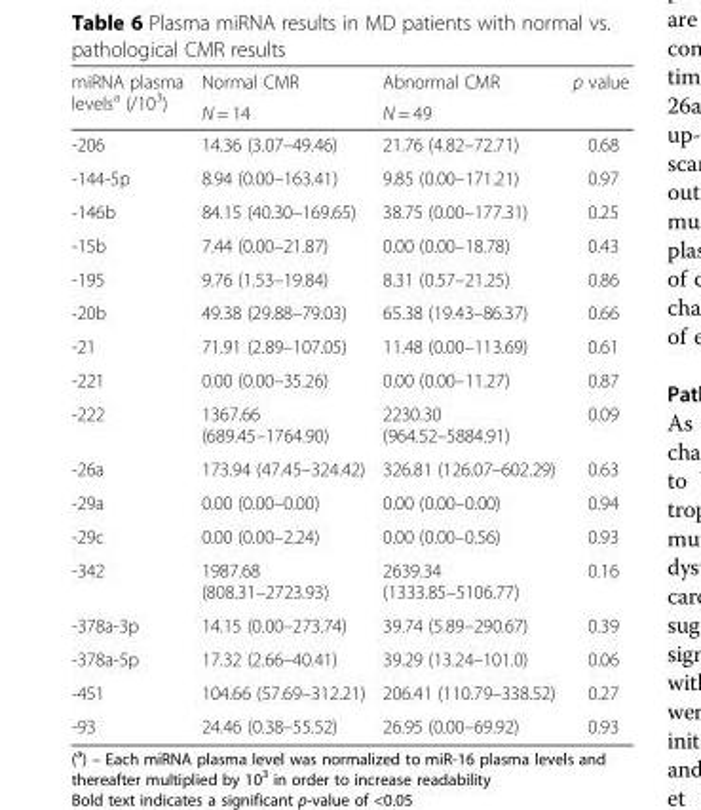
<table><thead><tr><td rowspan="2">miRNA plasma levels<sup>a</sup> (/10<sup>3</sup>)</td><td rowspan="2">Normal CMR N = 14</td><td rowspan="2">Abnormal CMR N = 49</td><td rowspan="2">p value</td></tr><tr></tr></thead><tbody><tr><td>-206</td><td>14.36 (3.07–49.46)</td><td>21.76 (4.82–72.71)</td><td>0.68</td></tr><tr><td>-144-5p</td><td>8.94 (0.00–163.41)</td><td>9.85 (0.00–171.21)</td><td>0.97</td></tr><tr><td>-146b</td><td>84.15 (40.30–169.65)</td><td>38.75 (0.00–177.31)</td><td>0.25</td></tr><tr><td>-15b</td><td>7.44 (0.00–21.87)</td><td>0.00 (0.00–18.78)</td><td>0.43</td></tr><tr><td>-195</td><td>9.76 (1.53–19.84)</td><td>8.31 (0.57–21.25)</td><td>0.86</td></tr><tr><td>-20b</td><td>49.38 (29.88–79.03)</td><td>65.38 (19.43–86.37)</td><td>0.66</td></tr><tr><td>-21</td><td>71.91 (2.89–107.05)</td><td>11.48 (0.00–113.69)</td><td>0.61</td></tr><tr><td>-221</td><td>0.00 (0.00–35.26)</td><td>0.00 (0.00–11.27)</td><td>0.87</td></tr><tr><td>-222</td><td>1367.66 (689.45–1764.90)</td><td>2230.30 (964.52–5884.91)</td><td>0.09</td></tr><tr><td>-26a</td><td>173.94 (47.45–324.42)</td><td>326.81 (126.07–602.29)</td><td>0.63</td></tr><tr><td>-29a</td><td>0.00 (0.00–0.00)</td><td>0.00 (0.00–0.00)</td><td>0.94</td></tr><tr><td>-29c</td><td>0.00 (0.00–2.24)</td><td>0.00 (0.00–0.56)</td><td>0.93</td></tr><tr><td>-342</td><td>1987.68 (808.31–2723.93)</td><td>2639.34 (1333.85–5106.77)</td><td>0.16</td></tr><tr><td>-378a-3p</td><td>14.15 (0.00–273.74)</td><td>39.74 (5.89–290.67)</td><td>0.39</td></tr><tr><td>-378a-5p</td><td>17.32 (2.66–40.41)</td><td>39.29 (13.24–101.0)</td><td>0.06</td></tr><tr><td>-451</td><td>104.66 (57.69–312.21)</td><td>206.41 (110.79–338.52)</td><td>0.27</td></tr><tr><td>-93</td><td>24.46 (0.38–55.52)</td><td>26.95 (0.00–69.92)</td><td>0.93</td></tr></tbody></table>